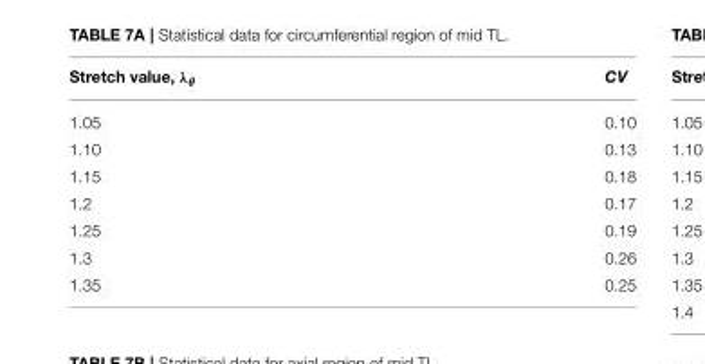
<table><thead><tr><td>Stretch value, λ<sub>θ</sub></td><td>CV</td></tr></thead><tbody><tr><td>1.05</td><td>0.10</td></tr><tr><td>1.10</td><td>0.13</td></tr><tr><td>1.15</td><td>0.18</td></tr><tr><td>1.2</td><td>0.17</td></tr><tr><td>1.25</td><td>0.19</td></tr><tr><td>1.3</td><td>0.26</td></tr><tr><td>1.35</td><td>0.25</td></tr></tbody></table>